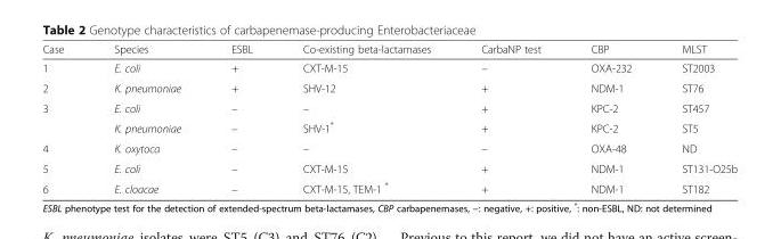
<table><thead><tr><td>Case</td><td>Species</td><td>ESBL</td><td>Co-existing beta-lactamases</td><td>CarbaNP test</td><td>CBP</td><td>MLST</td></tr></thead><tbody><tr><td>1</td><td>E. coli</td><td>+</td><td>CXT-M-15</td><td>–</td><td>OXA-232</td><td>ST2003</td></tr><tr><td>2</td><td>K. pneumoniae</td><td>+</td><td>SHV-12</td><td>+</td><td>NDM-1</td><td>ST76</td></tr><tr><td rowspan="2">3</td><td>E. coli</td><td>–</td><td>–</td><td>+</td><td>KPC-2</td><td>ST457</td></tr><tr><td>K. pneumoniae</td><td>–</td><td>SHV-1*</td><td>+</td><td>KPC-2</td><td>ST5</td></tr><tr><td>4</td><td>K. oxytoca</td><td>–</td><td>–</td><td>–</td><td>OXA-48</td><td>ND</td></tr><tr><td>5</td><td>E. coli</td><td>–</td><td>CXT-M-15</td><td>+</td><td>NDM-1</td><td>ST131-O25b</td></tr><tr><td>6</td><td>E. cloacae</td><td>–</td><td>CXT-M-15, TEM-1 *</td><td>+</td><td>NDM-1</td><td>ST182</td></tr></tbody></table>